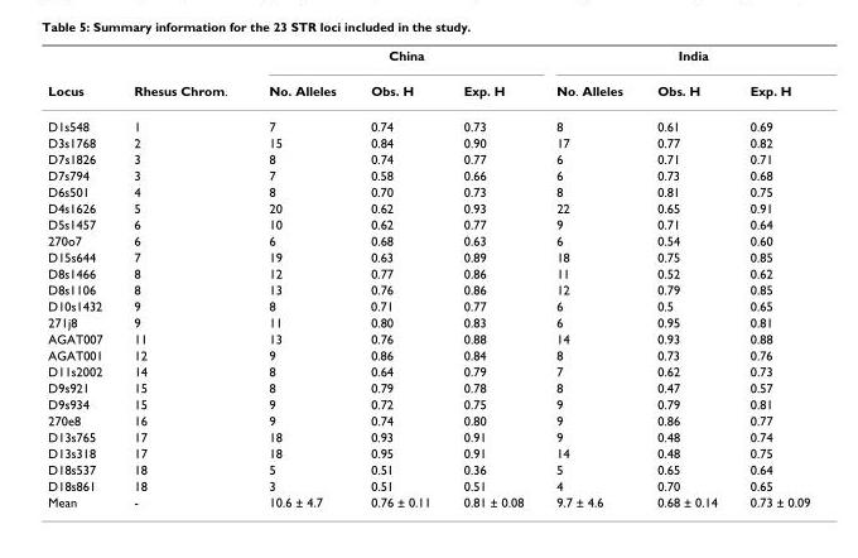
<table><thead><tr><td rowspan="2">Locus</td><td rowspan="2">Rhesus Chrom.</td><td colspan="3">China</td><td colspan="3">India</td></tr><tr><td>No. Alleles</td><td>Obs. H</td><td>Exp. H</td><td>No. Alleles</td><td>Obs. H</td><td>Exp. H</td></tr></thead><tbody><tr><td>D1s548</td><td>1</td><td>7</td><td>0.74</td><td>0.73</td><td>8</td><td>0.61</td><td>0.69</td></tr><tr><td>D3s1768</td><td>2</td><td>15</td><td>0.84</td><td>0.90</td><td>17</td><td>0.77</td><td>0.82</td></tr><tr><td>D7s1826</td><td>3</td><td>8</td><td>0.74</td><td>0.77</td><td>6</td><td>0.71</td><td>0.71</td></tr><tr><td>D7s794</td><td>3</td><td>7</td><td>0.58</td><td>0.66</td><td>6</td><td>0.73</td><td>0.68</td></tr><tr><td>D6s501</td><td>4</td><td>8</td><td>0.70</td><td>0.73</td><td>8</td><td>0.81</td><td>0.75</td></tr><tr><td>D4s1626</td><td>5</td><td>20</td><td>0.62</td><td>0.93</td><td>22</td><td>0.65</td><td>0.91</td></tr><tr><td>D5s1457</td><td>6</td><td>10</td><td>0.62</td><td>0.77</td><td>9</td><td>0.71</td><td>0.64</td></tr><tr><td>270o7</td><td>6</td><td>6</td><td>0.68</td><td>0.63</td><td>6</td><td>0.54</td><td>0.60</td></tr><tr><td>D15s644</td><td>7</td><td>19</td><td>0.63</td><td>0.89</td><td>18</td><td>0.75</td><td>0.85</td></tr><tr><td>D8s1466</td><td>8</td><td>12</td><td>0.77</td><td>0.86</td><td>11</td><td>0.52</td><td>0.62</td></tr><tr><td>D8s1106</td><td>8</td><td>13</td><td>0.76</td><td>0.86</td><td>12</td><td>0.79</td><td>0.85</td></tr><tr><td>D10s1432</td><td>9</td><td>8</td><td>0.71</td><td>0.77</td><td>6</td><td>0.5</td><td>0.65</td></tr><tr><td>271j8</td><td>9</td><td>11</td><td>0.80</td><td>0.83</td><td>6</td><td>0.95</td><td>0.81</td></tr><tr><td>AGAT007</td><td>11</td><td>13</td><td>0.76</td><td>0.88</td><td>14</td><td>0.93</td><td>0.88</td></tr><tr><td>AGAT001</td><td>12</td><td>9</td><td>0.86</td><td>0.84</td><td>8</td><td>0.73</td><td>0.76</td></tr><tr><td>D11s2002</td><td>14</td><td>8</td><td>0.64</td><td>0.79</td><td>7</td><td>0.62</td><td>0.73</td></tr><tr><td>D9s921</td><td>15</td><td>8</td><td>0.79</td><td>0.78</td><td>8</td><td>0.47</td><td>0.57</td></tr><tr><td>D9s934</td><td>15</td><td>9</td><td>0.72</td><td>0.75</td><td>9</td><td>0.79</td><td>0.81</td></tr><tr><td>270e8</td><td>16</td><td>9</td><td>0.74</td><td>0.80</td><td>9</td><td>0.86</td><td>0.77</td></tr><tr><td>D13s765</td><td>17</td><td>18</td><td>0.93</td><td>0.91</td><td>9</td><td>0.48</td><td>0.74</td></tr><tr><td>D13s318</td><td>17</td><td>18</td><td>0.95</td><td>0.91</td><td>14</td><td>0.48</td><td>0.75</td></tr><tr><td>D18s537</td><td>18</td><td>5</td><td>0.51</td><td>0.36</td><td>5</td><td>0.65</td><td>0.64</td></tr><tr><td>D18s861</td><td>18</td><td>3</td><td>0.51</td><td>0.51</td><td>4</td><td>0.70</td><td>0.65</td></tr><tr><td>Mean</td><td>-</td><td>10.6 ± 4.7</td><td>0.76 ± 0.11</td><td>0.81 ± 0.08</td><td>9.7 ± 4.6</td><td>0.68 ± 0.14</td><td>0.73 ± 0.09</td></tr></tbody></table>